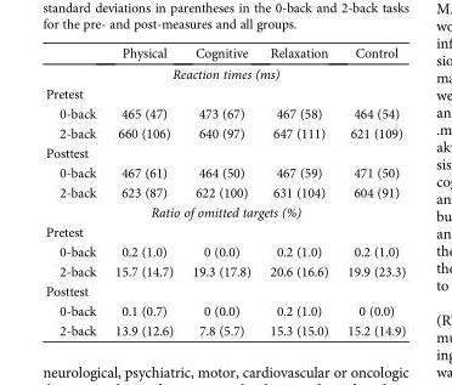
<table><thead><tr><td></td><td>Physical</td><td>Cognitive</td><td>Relaxation</td><td>Control</td></tr></thead><tbody><tr><td colspan="5">Reaction times (ms)</td></tr><tr><td colspan="5">Pretest</td></tr><tr><td>0-back</td><td>465 (47)</td><td>473 (67)</td><td>467 (58)</td><td>464 (54)</td></tr><tr><td>2-back</td><td>660 (106)</td><td>640 (97)</td><td>647 (111)</td><td>621 (109)</td></tr><tr><td colspan="5">Posttest</td></tr><tr><td>0-back</td><td>467 (61)</td><td>464 (50)</td><td>467 (59)</td><td>471 (50)</td></tr><tr><td>2-back</td><td>623 (87)</td><td>622 (100)</td><td>631 (104)</td><td>604 (91)</td></tr><tr><td colspan="5">Ratio of omitted targets (%)</td></tr><tr><td colspan="5">Pretest</td></tr><tr><td>0-back</td><td>0.2 (1.0)</td><td>0 (0.0)</td><td>0.2 (1.0)</td><td>0.2 (1.0)</td></tr><tr><td>2-back</td><td>15.7 (14.7)</td><td>19.3 (17.8)</td><td>20.6 (16.6)</td><td>19.9 (23.3)</td></tr><tr><td colspan="5">Posttest</td></tr><tr><td>0-back</td><td>0.1 (0.7)</td><td>0 (0.0)</td><td>0.2 (1.0)</td><td>0 (0.0)</td></tr><tr><td>2-back</td><td>13.9 (12.6)</td><td>7.8 (5.7)</td><td>15.3 (15.0)</td><td>15.2 (14.9)</td></tr></tbody></table>